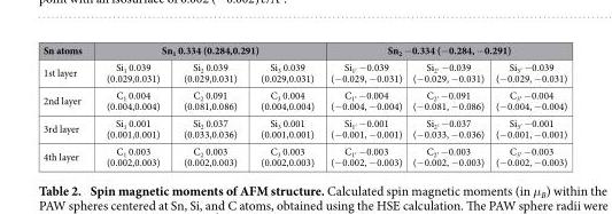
<table><thead><tr><td rowspan="2">Sn atoms 1st layer</td><td colspan="3">Sn<sub>1</sub> 0.334 (0.284,0.291)</td><td colspan="3">Sn<sub>2</sub> − 0.334 (− 0.284, − 0.291)</td></tr><tr><td>Si<sub>1</sub> 0.039 (0.029,0.031)</td><td>Si<sub>2</sub> 0.039 (0.029,0.031)</td><td>Si<sub>3</sub> 0.039 (0.029,0.031)</td><td>Si<sub>1′</sub> − 0.039 (− 0.029, − 0.031)</td><td>Si<sub>2′</sub> − 0.039 (− 0.029, − 0.031)</td><td>Si<sub>3′</sub> − 0.039 (− 0.029, − 0.031)</td></tr></thead><tbody><tr><td>2nd layer</td><td>C<sub>1</sub> 0.004 (0.004,0.004)</td><td>C<sub>2</sub> 0.091 (0.081,0.086)</td><td>C<sub>3</sub> 0.004 (0.004,0.004)</td><td>C<sub>1′</sub> − 0.004 (− 0.004, − 0.004)</td><td>C<sub>2′</sub> − 0.091 (− 0.081, − 0.086)</td><td>C<sub>3′</sub> − 0.004 (− 0.004, − 0.004)</td></tr><tr><td>3rd layer</td><td>Si<sub>1</sub> 0.001 (0.001,0.001)</td><td>Si<sub>2</sub> 0.037 (0.033,0.036)</td><td>Si<sub>3</sub> 0.001 (0.001,0.001)</td><td>Si<sub>1′</sub> − 0.001 (− 0.001, − 0.001)</td><td>Si<sub>2′</sub> − 0.037 (− 0.033, − 0.036)</td><td>Si<sub>3′</sub> − 0.001 (− 0.001, − 0.001)</td></tr><tr><td>4th layer</td><td>C<sub>1</sub> 0.003 (0.002,0.003)</td><td>C<sub>2</sub> 0.003 (0.002,0.003)</td><td>C<sub>3</sub> 0.003 (0.002,0.003)</td><td>C<sub>1′</sub> − 0.003 (− 0.002, − 0.003)</td><td>C<sub>2′</sub> − 0.003 (− 0.002, − 0.003)</td><td>C<sub>3′</sub> − 0.003 (− 0.002, − 0.003)</td></tr></tbody></table>